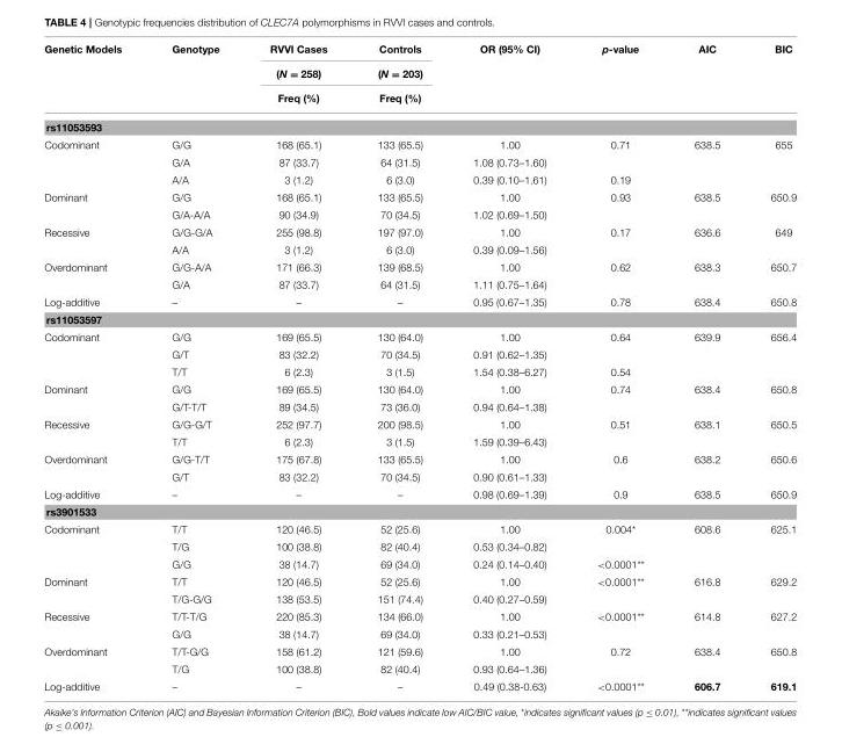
<table><thead><tr><td rowspan="3">Genetic Models</td><td rowspan="3">Genotype</td><td rowspan="3">RVVI Cases (N = 258) Freq (%)</td><td rowspan="3">Controls (N = 203) Freq (%)</td><td rowspan="3">OR (95% CI)</td><td rowspan="3">p-value</td><td rowspan="3">AIC</td><td rowspan="3">BIC</td></tr><tr></tr><tr></tr></thead><tbody><tr><td colspan="8">rs11053593</td></tr><tr><td rowspan="3">Codominant</td><td>G/G</td><td>168 (65.1)</td><td>133 (65.5)</td><td>1.00</td><td>0.71</td><td>638.5</td><td>655</td></tr><tr><td>G/A</td><td>87 (33.7)</td><td>64 (31.5)</td><td>1.08 (0.73–1.60)</td><td></td><td></td><td></td></tr><tr><td>A/A</td><td>3 (1.2)</td><td>6 (3.0)</td><td>0.39 (0.10–1.61)</td><td>0.19</td><td></td><td></td></tr><tr><td rowspan="2">Dominant</td><td>G/G</td><td>168 (65.1)</td><td>133 (65.5)</td><td>1.00</td><td>0.93</td><td>638.5</td><td>650.9</td></tr><tr><td>G/A-A/A</td><td>90 (34.9)</td><td>70 (34.5)</td><td>1.02 (0.69–1.50)</td><td></td><td></td><td></td></tr><tr><td rowspan="2">Recessive</td><td>G/G-G/A</td><td>255 (98.8)</td><td>197 (97.0)</td><td>1.00</td><td>0.17</td><td>636.6</td><td>649</td></tr><tr><td>A/A</td><td>3 (1.2)</td><td>6 (3.0)</td><td>0.39 (0.09–1.56)</td><td></td><td></td><td></td></tr><tr><td rowspan="2">Overdominant</td><td>G/G-A/A</td><td>171 (66.3)</td><td>139 (68.5)</td><td>1.00</td><td>0.62</td><td>638.3</td><td>650.7</td></tr><tr><td>G/A</td><td>87 (33.7)</td><td>64 (31.5)</td><td>1.11 (0.75–1.64)</td><td></td><td></td><td></td></tr><tr><td>Log-additive</td><td>–</td><td>–</td><td>–</td><td>0.95 (0.67–1.35)</td><td>0.78</td><td>638.4</td><td>650.8</td></tr><tr><td colspan="8">rs11053597</td></tr><tr><td rowspan="3">Codominant</td><td>G/G</td><td>169 (65.5)</td><td>130 (64.0)</td><td>1.00</td><td>0.64</td><td>639.9</td><td>656.4</td></tr><tr><td>G/T</td><td>83 (32.2)</td><td>70 (34.5)</td><td>0.91 (0.62–1.35)</td><td></td><td></td><td></td></tr><tr><td>T/T</td><td>6 (2.3)</td><td>3 (1.5)</td><td>1.54 (0.38–6.27)</td><td>0.54</td><td></td><td></td></tr><tr><td rowspan="2">Dominant</td><td>G/G</td><td>169 (65.5)</td><td>130 (64.0)</td><td>1.00</td><td>0.74</td><td>638.4</td><td>650.8</td></tr><tr><td>G/T-T/T</td><td>89 (34.5)</td><td>73 (36.0)</td><td>0.94 (0.64–1.38)</td><td></td><td></td><td></td></tr><tr><td rowspan="2">Recessive</td><td>G/G-G/T</td><td>252 (97.7)</td><td>200 (98.5)</td><td>1.00</td><td>0.51</td><td>638.1</td><td>650.5</td></tr><tr><td>T/T</td><td>6 (2.3)</td><td>3 (1.5)</td><td>1.59 (0.39–6.43)</td><td></td><td></td><td></td></tr><tr><td rowspan="2">Overdominant</td><td>G/G-T/T</td><td>175 (67.8)</td><td>133 (65.5)</td><td>1.00</td><td>0.6</td><td>638.2</td><td>650.6</td></tr><tr><td>G/T</td><td>83 (32.2)</td><td>70 (34.5)</td><td>0.90 (0.61–1.33)</td><td></td><td></td><td></td></tr><tr><td>Log-additive</td><td>–</td><td>–</td><td>–</td><td>0.98 (0.69–1.39)</td><td>0.9</td><td>638.5</td><td>650.9</td></tr><tr><td colspan="8">rs3901533</td></tr><tr><td rowspan="3">Codominant</td><td>T/T</td><td>120 (46.5)</td><td>52 (25.6)</td><td>1.00</td><td>0.004*</td><td>608.6</td><td>625.1</td></tr><tr><td>T/G</td><td>100 (38.8)</td><td>82 (40.4)</td><td>0.53 (0.34–0.82)</td><td></td><td></td><td></td></tr><tr><td>G/G</td><td>38 (14.7)</td><td>69 (34.0)</td><td>0.24 (0.14–0.40)</td><td>&lt;0.0001**</td><td></td><td></td></tr><tr><td rowspan="2">Dominant</td><td>T/T</td><td>120 (46.5)</td><td>52 (25.6)</td><td>1.00</td><td>&lt;0.0001**</td><td>616.8</td><td>629.2</td></tr><tr><td>T/G-G/G</td><td>138 (53.5)</td><td>151 (74.4)</td><td>0.40 (0.27–0.59)</td><td></td><td></td><td></td></tr><tr><td rowspan="2">Recessive</td><td>T/T-T/G</td><td>220 (85.3)</td><td>134 (66.0)</td><td>1.00</td><td>&lt;0.0001**</td><td>614.8</td><td>627.2</td></tr><tr><td>G/G</td><td>38 (14.7)</td><td>69 (34.0)</td><td>0.33 (0.21–0.53)</td><td></td><td></td><td></td></tr><tr><td rowspan="2">Overdominant</td><td>T/T-G/G</td><td>158 (61.2)</td><td>121 (59.6)</td><td>1.00</td><td>0.72</td><td>638.4</td><td>650.8</td></tr><tr><td>T/G</td><td>100 (38.8)</td><td>82 (40.4)</td><td>0.93 (0.64–1.36)</td><td></td><td></td><td></td></tr><tr><td>Log-additive</td><td>–</td><td>–</td><td>–</td><td>0.49 (0.38-0.63)</td><td>&lt;0.0001**</td><td>606.7</td><td>619.1</td></tr></tbody></table>